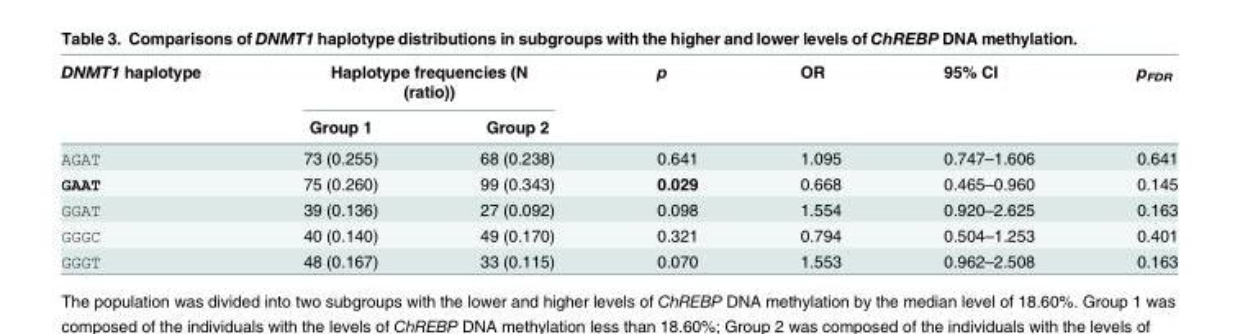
<table><thead><tr><td rowspan="2">DNMT1 haplotype</td><td colspan="2">Haplotype frequencies (N (ratio))</td><td rowspan="2">p</td><td rowspan="2">OR</td><td rowspan="2">95% CI</td><td rowspan="2">p<sub>FDR</sub></td></tr><tr><td>Group 1</td><td>Group 2</td></tr></thead><tbody><tr><td>AGAT</td><td>73 (0.255)</td><td>68 (0.238)</td><td>0.641</td><td>1.095</td><td>0.747–1.606</td><td>0.641</td></tr><tr><td>GAAT</td><td>75 (0.260)</td><td>99 (0.343)</td><td>0.029</td><td>0.668</td><td>0.465–0.960</td><td>0.145</td></tr><tr><td>GGAT</td><td>39 (0.136)</td><td>27 (0.092)</td><td>0.098</td><td>1.554</td><td>0.920–2.625</td><td>0.163</td></tr><tr><td>GGGC</td><td>40 (0.140)</td><td>49 (0.170)</td><td>0.321</td><td>0.794</td><td>0.504–1.253</td><td>0.401</td></tr><tr><td>GGGT</td><td>48 (0.167)</td><td>33 (0.115)</td><td>0.070</td><td>1.553</td><td>0.962–2.508</td><td>0.163</td></tr></tbody></table>